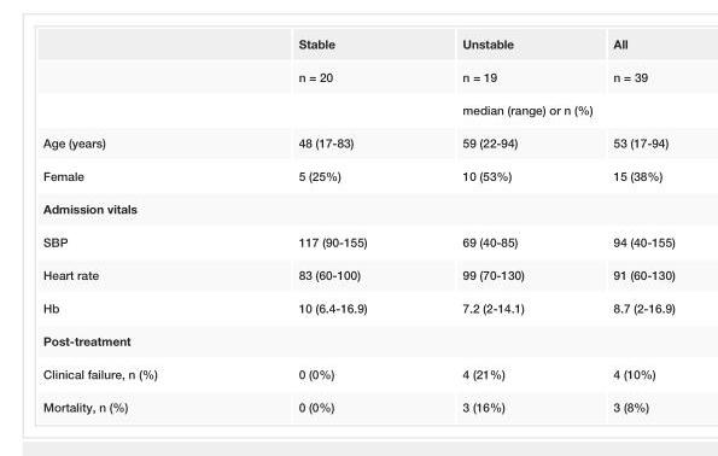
<table><thead><tr><td></td><td>Stable</td><td>Unstable</td><td>All</td></tr></thead><tbody><tr><td></td><td>n = 20</td><td>n = 19</td><td>n = 39</td></tr><tr><td></td><td></td><td colspan="2">median (range) or n (%)</td></tr><tr><td>Age (years)</td><td>48 (17-83)</td><td>59 (22-94)</td><td>53 (17-94)</td></tr><tr><td>Female</td><td>5 (25%)</td><td>10 (53%)</td><td>15 (38%)</td></tr><tr><td colspan="4">Admission vitals</td></tr><tr><td>SBP</td><td>117 (90-155)</td><td>69 (40-85)</td><td>94 (40-155)</td></tr><tr><td>Heart rate</td><td>83 (60-100)</td><td>99 (70-130)</td><td>91 (60-130)</td></tr><tr><td>Hb</td><td>10 (6.4-16.9)</td><td>7.2 (2-14.1)</td><td>8.7 (2-16.9)</td></tr><tr><td colspan="4">Post-treatment</td></tr><tr><td>Clinical failure, n (%)</td><td>0 (0%)</td><td>4 (21%)</td><td>4 (10%)</td></tr><tr><td>Mortality, n (%)</td><td>0 (0%)</td><td>3 (16%)</td><td>3 (8%)</td></tr></tbody></table>